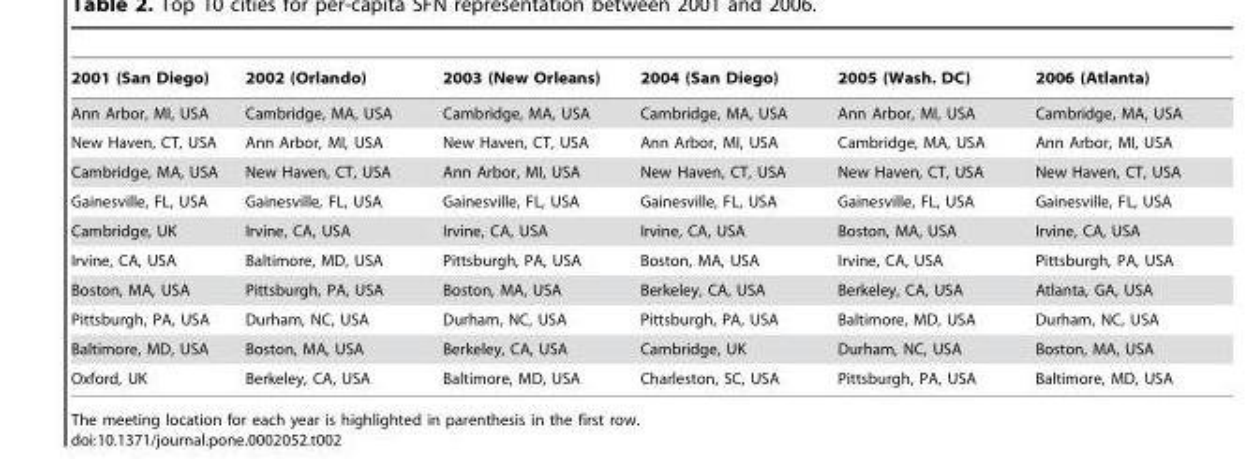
<table><thead><tr><td>2001 (San Diego)</td><td>2002 (Orlando)</td><td>2003 (New Orleans)</td><td>2004 (San Diego)</td><td>2005 (Wash. DC)</td><td>2006 (Atlanta)</td></tr></thead><tbody><tr><td>Ann Arbor, MI, USA</td><td>Cambridge, MA, USA</td><td>Cambridge, MA, USA</td><td>Cambridge, MA, USA</td><td>Ann Arbor, MI, USA</td><td>Cambridge, MA, USA</td></tr><tr><td>New Haven, CT, USA</td><td>Ann Arbor, MI, USA</td><td>New Haven, CT, USA</td><td>Ann Arbor, MI, USA</td><td>Cambridge, MA, USA</td><td>Ann Arbor, MI, USA</td></tr><tr><td>Cambridge, MA, USA</td><td>New Haven, CT, USA</td><td>Ann Arbor, MI, USA</td><td>New Haven, CT, USA</td><td>New Haven, CT, USA</td><td>New Haven, CT, USA</td></tr><tr><td>Gainesville, FL, USA</td><td>Gainesville, FL, USA</td><td>Gainesville, FL, USA</td><td>Gainesville, FL, USA</td><td>Gainesville, FL, USA</td><td>Gainesville, FL, USA</td></tr><tr><td>Cambridge, UK</td><td>Irvine, CA, USA</td><td>Irvine, CA, USA</td><td>Irvine, CA, USA</td><td>Boston, MA, USA</td><td>Irvine, CA, USA</td></tr><tr><td>Irvine, CA, USA</td><td>Baltimore, MD, USA</td><td>Pittsburgh, PA, USA</td><td>Boston, MA, USA</td><td>Irvine, CA, USA</td><td>Pittsburgh, PA, USA</td></tr><tr><td>Boston, MA, USA</td><td>Pittsburgh, PA, USA</td><td>Boston, MA, USA</td><td>Berkeley, CA, USA</td><td>Berkeley, CA, USA</td><td>Atlanta, GA, USA</td></tr><tr><td>Pittsburgh, PA, USA</td><td>Durham, NC, USA</td><td>Durham, NC, USA</td><td>Pittsburgh, PA, USA</td><td>Baltimore, MD, USA</td><td>Durham, NC, USA</td></tr><tr><td>Baltimore, MD, USA</td><td>Boston, MA, USA</td><td>Berkeley, CA, USA</td><td>Cambridge, UK</td><td>Durham, NC, USA</td><td>Boston, MA, USA</td></tr><tr><td>Oxford, UK</td><td>Berkeley, CA, USA</td><td>Baltimore, MD, USA</td><td>Charleston, SC, USA</td><td>Pittsburgh, PA, USA</td><td>Baltimore, MD, USA</td></tr></tbody></table>